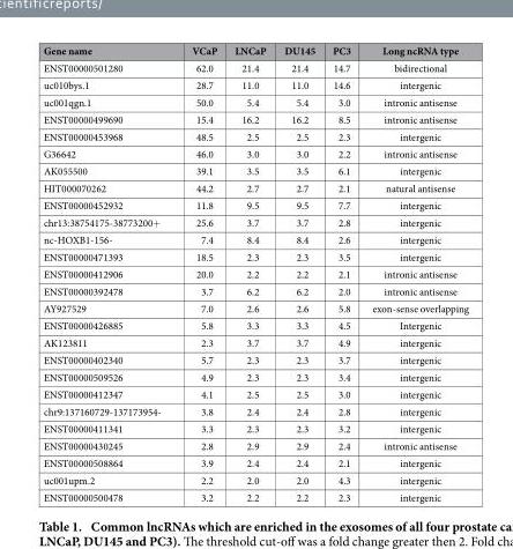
<table><thead><tr><td>Gene name</td><td>VCaP</td><td>LNCaP</td><td>DU145</td><td>PC3</td><td>Long ncRNA type</td></tr></thead><tbody><tr><td>ENST00000501280</td><td>62.0</td><td>21.4</td><td>21.4</td><td>14.7</td><td>bidirectional</td></tr><tr><td>uc010bys.1</td><td>28.7</td><td>11.0</td><td>11.0</td><td>14.6</td><td>intergenic</td></tr><tr><td>uc001qgn.1</td><td>50.0</td><td>5.4</td><td>5.4</td><td>3.0</td><td>intronic antisense</td></tr><tr><td>ENST00000499690</td><td>15.4</td><td>16.2</td><td>16.2</td><td>8.5</td><td>intronic antisense</td></tr><tr><td>ENST00000453968</td><td>48.5</td><td>2.5</td><td>2.5</td><td>2.3</td><td>intergenic</td></tr><tr><td>G36642</td><td>46.0</td><td>3.0</td><td>3.0</td><td>2.2</td><td>intronic antisense</td></tr><tr><td>AK055500</td><td>39.1</td><td>3.5</td><td>3.5</td><td>6.1</td><td>intergenic</td></tr><tr><td>HIT000070262</td><td>44.2</td><td>2.7</td><td>2.7</td><td>2.1</td><td>natural antisense</td></tr><tr><td>ENST00000452932</td><td>11.8</td><td>9.5</td><td>9.5</td><td>7.7</td><td>intergenic</td></tr><tr><td>chr13:38754175-38773200+</td><td>25.6</td><td>3.7</td><td>3.7</td><td>2.8</td><td>intergenic</td></tr><tr><td>nc-HOXB1-156-</td><td>7.4</td><td>8.4</td><td>8.4</td><td>2.6</td><td>intergenic</td></tr><tr><td>ENST00000471393</td><td>18.5</td><td>2.3</td><td>2.3</td><td>3.5</td><td>intergenic</td></tr><tr><td>ENST00000412906</td><td>20.0</td><td>2.2</td><td>2.2</td><td>2.1</td><td>intronic antisense</td></tr><tr><td>ENST00000392478</td><td>3.7</td><td>6.2</td><td>6.2</td><td>2.0</td><td>intronic antisense</td></tr><tr><td>AY927529</td><td>7.0</td><td>2.6</td><td>2.6</td><td>5.8</td><td>exon-sense overlapping</td></tr><tr><td>ENST00000426885</td><td>5.8</td><td>3.3</td><td>3.3</td><td>4.5</td><td>Intergenic</td></tr><tr><td>AK123811</td><td>2.3</td><td>3.7</td><td>3.7</td><td>4.9</td><td>intergenic</td></tr><tr><td>ENST00000402340</td><td>5.7</td><td>2.3</td><td>2.3</td><td>3.7</td><td>intergenic</td></tr><tr><td>ENST00000509526</td><td>4.9</td><td>2.3</td><td>2.3</td><td>3.4</td><td>intergenic</td></tr><tr><td>ENST00000412347</td><td>4.1</td><td>2.5</td><td>2.5</td><td>3.0</td><td>intergenic</td></tr><tr><td>chr9:137160729-137173954-</td><td>3.8</td><td>2.4</td><td>2.4</td><td>2.8</td><td>intergenic</td></tr><tr><td>ENST00000411341</td><td>3.3</td><td>2.3</td><td>2.3</td><td>3.2</td><td>intergenic</td></tr><tr><td>ENST00000430245</td><td>2.8</td><td>2.9</td><td>2.9</td><td>2.4</td><td>intronic antisense</td></tr><tr><td>ENST00000508864</td><td>3.9</td><td>2.4</td><td>2.4</td><td>2.1</td><td>intergenic</td></tr><tr><td>uc001upm.2</td><td>2.2</td><td>2.0</td><td>2.0</td><td>4.3</td><td>intergenic</td></tr><tr><td>ENST00000500478</td><td>3.2</td><td>2.2</td><td>2.2</td><td>2.3</td><td>intergenic</td></tr></tbody></table>